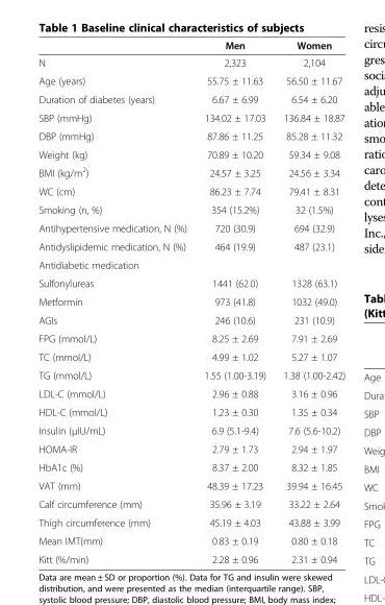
<table><thead><tr><td></td><td>Men</td><td>Women</td></tr></thead><tbody><tr><td>N</td><td>2,323</td><td>2,104</td></tr><tr><td>Age (years)</td><td>55.75 ± 11.63</td><td>56.50 ± 11.67</td></tr><tr><td>Duration of diabetes (years)</td><td>6.67 ± 6.99</td><td>6.54 ± 6.20</td></tr><tr><td>SBP (mmHg)</td><td>134.02 ± 17.03</td><td>136.84 ± 18.87</td></tr><tr><td>DBP (mmHg)</td><td>87.86 ± 11.25</td><td>85.28 ± 11.32</td></tr><tr><td>Weight (kg)</td><td>70.89 ± 10.20</td><td>59.34 ± 9.08</td></tr><tr><td>BMI (kg/m<sup>2</sup>)</td><td>24.57 ± 3.25</td><td>24.56 ± 3.34</td></tr><tr><td>WC (cm)</td><td>86.23 ± 7.74</td><td>79.41 ± 8.31</td></tr><tr><td>Smoking (n, %)</td><td>354 (15.2%)</td><td>32 (1.5%)</td></tr><tr><td>Antihypertensive medication, N (%)</td><td>720 (30.9)</td><td>694 (32.9)</td></tr><tr><td>Antidyslipidemic medication, N (%)</td><td>464 (19.9)</td><td>487 (23.1)</td></tr><tr><td colspan="3">Antidiabetic medication</td></tr><tr><td>Sulfonylureas</td><td>1441 (62.0)</td><td>1328 (63.1)</td></tr><tr><td>Metformin</td><td>973 (41.8)</td><td>1032 (49.0)</td></tr><tr><td>AGIs</td><td>246 (10.6)</td><td>231 (10.9)</td></tr><tr><td>FPG (mmol/L)</td><td>8.25 ± 2.69</td><td>7.91 ± 2.69</td></tr><tr><td>TC (mmol/L)</td><td>4.99 ± 1.02</td><td>5.27 ± 1.07</td></tr><tr><td>TG (mmol/L)</td><td>1.55 (1.00-3.19)</td><td>1.38 (1.00-2.42)</td></tr><tr><td>LDL-C (mmol/L)</td><td>2.96 ± 0.88</td><td>3.16 ± 0.96</td></tr><tr><td>HDL-C (mmol/L)</td><td>1.23 ± 0.30</td><td>1.35 ± 0.34</td></tr><tr><td>Insulin (μIU/mL)</td><td>6.9 (5.1-9.4)</td><td>7.6 (5.6-10.2)</td></tr><tr><td>HOMA-IR</td><td>2.79 ± 1.73</td><td>2.94 ± 1.97</td></tr><tr><td>HbA1c (%)</td><td>8.37 ± 2.00</td><td>8.32 ± 1.85</td></tr><tr><td>VAT (mm)</td><td>48.39 ± 17.23</td><td>39.94 ± 16.45</td></tr><tr><td>Calf circumference (mm)</td><td>35.96 ± 3.19</td><td>33.22 ± 2.64</td></tr><tr><td>Thigh circumference (mm)</td><td>45.19 ± 4.03</td><td>43.88 ± 3.99</td></tr><tr><td>Mean IMT(mm)</td><td>0.83 ± 0.19</td><td>0.80 ± 0.18</td></tr><tr><td>Kitt (%/min)</td><td>2.28 ± 0.96</td><td>2.31 ± 0.94</td></tr></tbody></table>